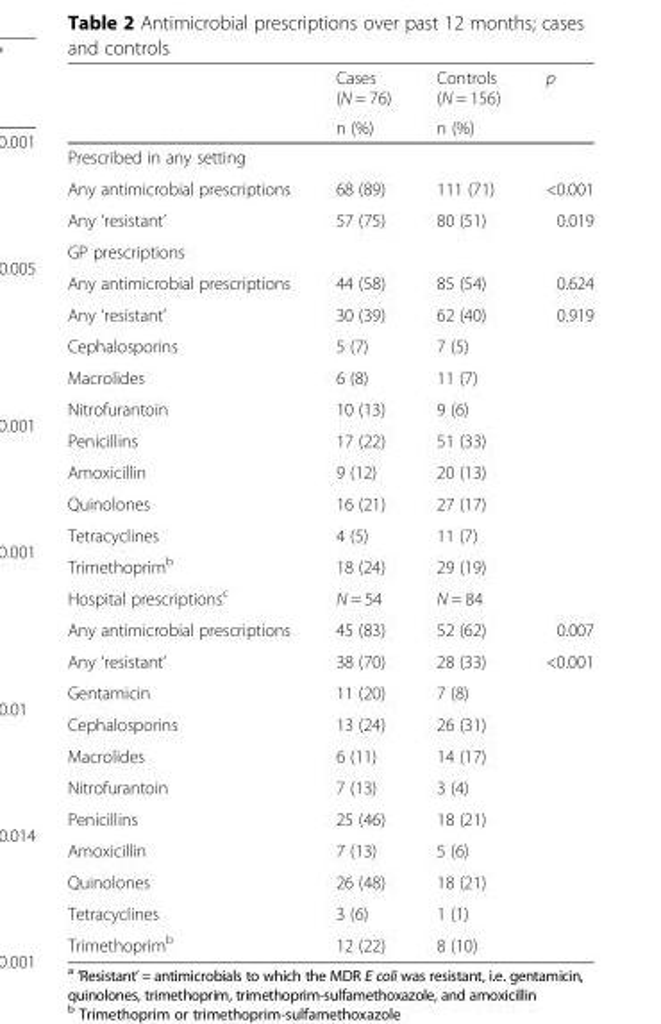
<table><thead><tr><td rowspan="2"></td><td rowspan="2">Cases (N = 76) n (%)</td><td rowspan="2">Controls (N = 156) n (%)</td><td rowspan="2">p</td></tr><tr></tr></thead><tbody><tr><td colspan="4">Prescribed in any setting</td></tr><tr><td>Any antimicrobial prescriptions</td><td>68 (89)</td><td>111 (71)</td><td>&lt;0.001</td></tr><tr><td>Any ‘resistant’</td><td>57 (75)</td><td>80 (51)</td><td>0.019</td></tr><tr><td colspan="4">GP prescriptions</td></tr><tr><td>Any antimicrobial prescriptions</td><td>44 (58)</td><td>85 (54)</td><td>0.624</td></tr><tr><td>Any ‘resistant’</td><td>30 (39)</td><td>62 (40)</td><td>0.919</td></tr><tr><td>Cephalosporins</td><td>5 (7)</td><td>7 (5)</td><td></td></tr><tr><td>Macrolides</td><td>6 (8)</td><td>11 (7)</td><td></td></tr><tr><td>Nitrofurantoin</td><td>10 (13)</td><td>9 (6)</td><td></td></tr><tr><td>Penicillins</td><td>17 (22)</td><td>51 (33)</td><td></td></tr><tr><td>Amoxicillin</td><td>9 (12)</td><td>20 (13)</td><td></td></tr><tr><td>Quinolones</td><td>16 (21)</td><td>27 (17)</td><td></td></tr><tr><td>Tetracyclines</td><td>4 (5)</td><td>11 (7)</td><td></td></tr><tr><td>Trimethoprim<sup>b</sup></td><td>18 (24)</td><td>29 (19)</td><td></td></tr><tr><td>Hospital prescriptions<sup>c</sup></td><td>N = 54</td><td>N = 84</td><td></td></tr><tr><td>Any antimicrobial prescriptions</td><td>45 (83)</td><td>52 (62)</td><td>0.007</td></tr><tr><td>Any ‘resistant’</td><td>38 (70)</td><td>28 (33)</td><td>&lt;0.001</td></tr><tr><td>Gentamicin</td><td>11 (20)</td><td>7 (8)</td><td></td></tr><tr><td>Cephalosporins</td><td>13 (24)</td><td>26 (31)</td><td></td></tr><tr><td>Macrolides</td><td>6 (11)</td><td>14 (17)</td><td></td></tr><tr><td>Nitrofurantoin</td><td>7 (13)</td><td>3 (4)</td><td></td></tr><tr><td>Penicillins</td><td>25 (46)</td><td>18 (21)</td><td></td></tr><tr><td>Amoxicillin</td><td>7 (13)</td><td>5 (6)</td><td></td></tr><tr><td>Quinolones</td><td>26 (48)</td><td>18 (21)</td><td></td></tr><tr><td>Tetracyclines</td><td>3 (6)</td><td>1 (1)</td><td></td></tr><tr><td>Trimethoprim<sup>b</sup></td><td>12 (22)</td><td>8 (10)</td><td></td></tr></tbody></table>